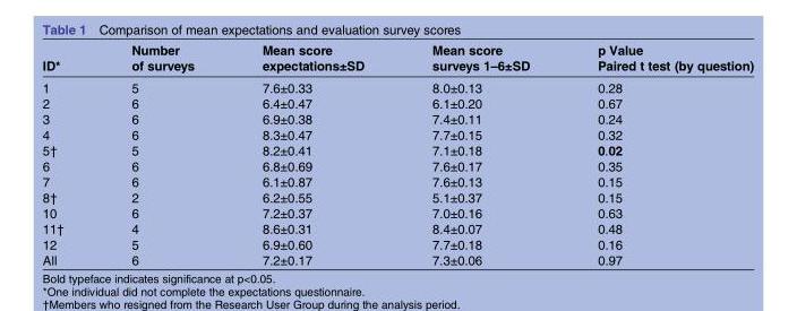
<table><thead><tr><td>ID*</td><td>Number of surveys</td><td>Mean score expectations±SD</td><td>Mean score surveys 1–6±SD</td><td>p Value Paired t test (by question)</td></tr></thead><tbody><tr><td>1</td><td>5</td><td>7.6±0.33</td><td>8.0±0.13</td><td>0.28</td></tr><tr><td>2</td><td>6</td><td>6.4±0.47</td><td>6.1±0.20</td><td>0.67</td></tr><tr><td>3</td><td>6</td><td>6.9±0.38</td><td>7.4±0.11</td><td>0.24</td></tr><tr><td>4</td><td>6</td><td>8.3±0.47</td><td>7.7±0.15</td><td>0.32</td></tr><tr><td>5†</td><td>5</td><td>8.2±0.41</td><td>7.1±0.18</td><td>0.02</td></tr><tr><td>6</td><td>6</td><td>6.8±0.69</td><td>7.6±0.17</td><td>0.35</td></tr><tr><td>7</td><td>6</td><td>6.1±0.87</td><td>7.6±0.13</td><td>0.15</td></tr><tr><td>8†</td><td>2</td><td>6.2±0.55</td><td>5.1±0.37</td><td>0.15</td></tr><tr><td>10</td><td>6</td><td>7.2±0.37</td><td>7.0±0.16</td><td>0.63</td></tr><tr><td>11†</td><td>4</td><td>8.6±0.31</td><td>8.4±0.07</td><td>0.48</td></tr><tr><td>12</td><td>5</td><td>6.9±0.60</td><td>7.7±0.18</td><td>0.16</td></tr><tr><td>All</td><td>6</td><td>7.2±0.17</td><td>7.3±0.06</td><td>0.97</td></tr></tbody></table>